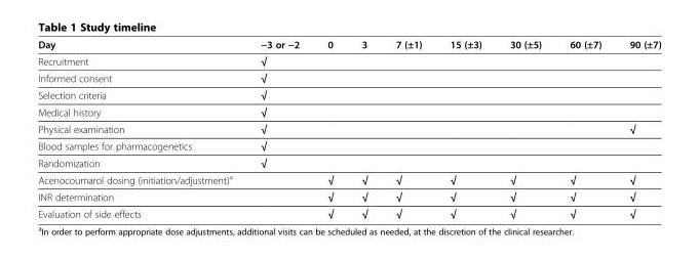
<table><thead><tr><td>Day</td><td>−3 or −2</td><td>0</td><td>3</td><td>7 (±1)</td><td>15 (±3)</td><td>30 (±5)</td><td>60 (±7)</td><td>90 (±7)</td></tr></thead><tbody><tr><td>Recruitment</td><td>√</td><td></td><td></td><td></td><td></td><td></td><td></td><td></td></tr><tr><td>Informed consent</td><td>√</td><td></td><td></td><td></td><td></td><td></td><td></td><td></td></tr><tr><td>Selection criteria</td><td>√</td><td></td><td></td><td></td><td></td><td></td><td></td><td></td></tr><tr><td>Medical history</td><td>√</td><td></td><td></td><td></td><td></td><td></td><td></td><td></td></tr><tr><td>Physical examination</td><td>√</td><td></td><td></td><td></td><td></td><td></td><td></td><td>√</td></tr><tr><td>Blood samples for pharmacogenetics</td><td>√</td><td></td><td></td><td></td><td></td><td></td><td></td><td></td></tr><tr><td>Randomization</td><td>√</td><td></td><td></td><td></td><td></td><td></td><td></td><td></td></tr><tr><td>Acenocoumarol dosing (initiation/adjustment)<sup>a</sup></td><td></td><td>√</td><td>√</td><td>√</td><td>√</td><td>√</td><td>√</td><td>√</td></tr><tr><td>INR determination</td><td></td><td>√</td><td>√</td><td>√</td><td>√</td><td>√</td><td>√</td><td>√</td></tr><tr><td>Evaluation of side effects</td><td></td><td>√</td><td>√</td><td>√</td><td>√</td><td>√</td><td>√</td><td>√</td></tr></tbody></table>